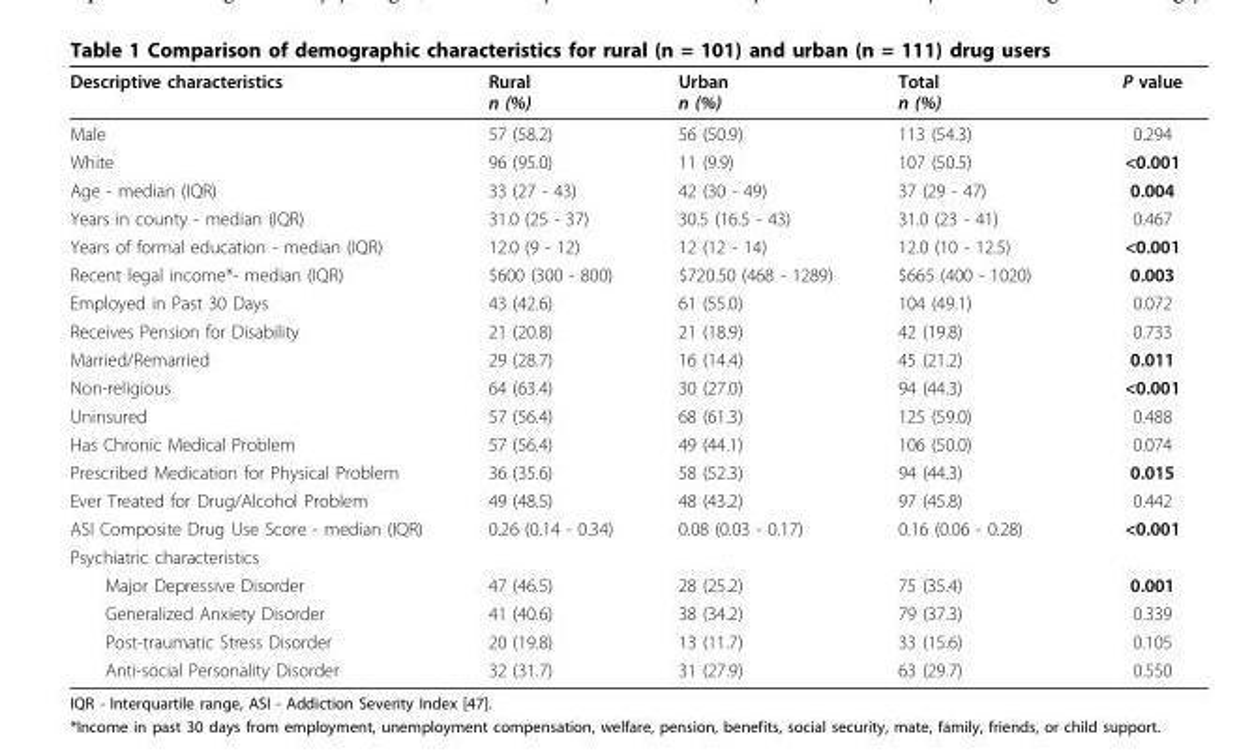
<table><thead><tr><td>Descriptive characteristics</td><td>Rural n (%)</td><td>Urban n (%)</td><td>Total n (%)</td><td>P value</td></tr></thead><tbody><tr><td>Male</td><td>57 (58.2)</td><td>56 (50.9)</td><td>113 (54.3)</td><td>0.294</td></tr><tr><td>White</td><td>96 (95.0)</td><td>11 (9.9)</td><td>107 (50.5)</td><td>&lt;0.001</td></tr><tr><td>Age - median (IQR)</td><td>33 (27 - 43)</td><td>42 (30 - 49)</td><td>37 (29 - 47)</td><td>0.004</td></tr><tr><td>Years in county - median (IQR)</td><td>31.0 (25 - 37)</td><td>30.5 (16.5 - 43)</td><td>31.0 (23 - 41)</td><td>0.467</td></tr><tr><td>Years of formal education - median (IQR)</td><td>12.0 (9 - 12)</td><td>12 (12 - 14)</td><td>12.0 (10 - 12.5)</td><td>&lt;0.001</td></tr><tr><td>Recent legal income*- median (IQR)</td><td>$600 (300 - 800)</td><td>$720.50 (468 - 1289)</td><td>$665 (400 - 1020)</td><td>0.003</td></tr><tr><td>Employed in Past 30 Days</td><td>43 (42.6)</td><td>61 (55.0)</td><td>104 (49.1)</td><td>0.072</td></tr><tr><td>Receives Pension for Disability</td><td>21 (20.8)</td><td>21 (18.9)</td><td>42 (19.8)</td><td>0.733</td></tr><tr><td>Married/Remarried</td><td>29 (28.7)</td><td>16 (14.4)</td><td>45 (21.2)</td><td>0.011</td></tr><tr><td>Non-religious</td><td>64 (63.4)</td><td>30 (27.0)</td><td>94 (44.3)</td><td>&lt;0.001</td></tr><tr><td>Uninsured</td><td>57 (56.4)</td><td>68 (61.3)</td><td>125 (59.0)</td><td>0.488</td></tr><tr><td>Has Chronic Medical Problem</td><td>57 (56.4)</td><td>49 (44.1)</td><td>106 (50.0)</td><td>0.074</td></tr><tr><td>Prescribed Medication for Physical Problem</td><td>36 (35.6)</td><td>58 (52.3)</td><td>94 (44.3)</td><td>0.015</td></tr><tr><td>Ever Treated for Drug/Alcohol Problem</td><td>49 (48.5)</td><td>48 (43.2)</td><td>97 (45.8)</td><td>0.442</td></tr><tr><td>ASI Composite Drug Use Score - median (IQR)</td><td>0.26 (0.14 - 0.34)</td><td>0.08 (0.03 - 0.17)</td><td>0.16 (0.06 - 0.28)</td><td>&lt;0.001</td></tr><tr><td colspan="5">Psychiatric characteristics</td></tr><tr><td>Major Depressive Disorder</td><td>47 (46.5)</td><td>28 (25.2)</td><td>75 (35.4)</td><td>0.001</td></tr><tr><td>Generalized Anxiety Disorder</td><td>41 (40.6)</td><td>38 (34.2)</td><td>79 (37.3)</td><td>0.339</td></tr><tr><td>Post-traumatic Stress Disorder</td><td>20 (19.8)</td><td>13 (11.7)</td><td>33 (15.6)</td><td>0.105</td></tr><tr><td>Anti-social Personality Disorder</td><td>32 (31.7)</td><td>31 (27.9)</td><td>63 (29.7)</td><td>0.550</td></tr></tbody></table>